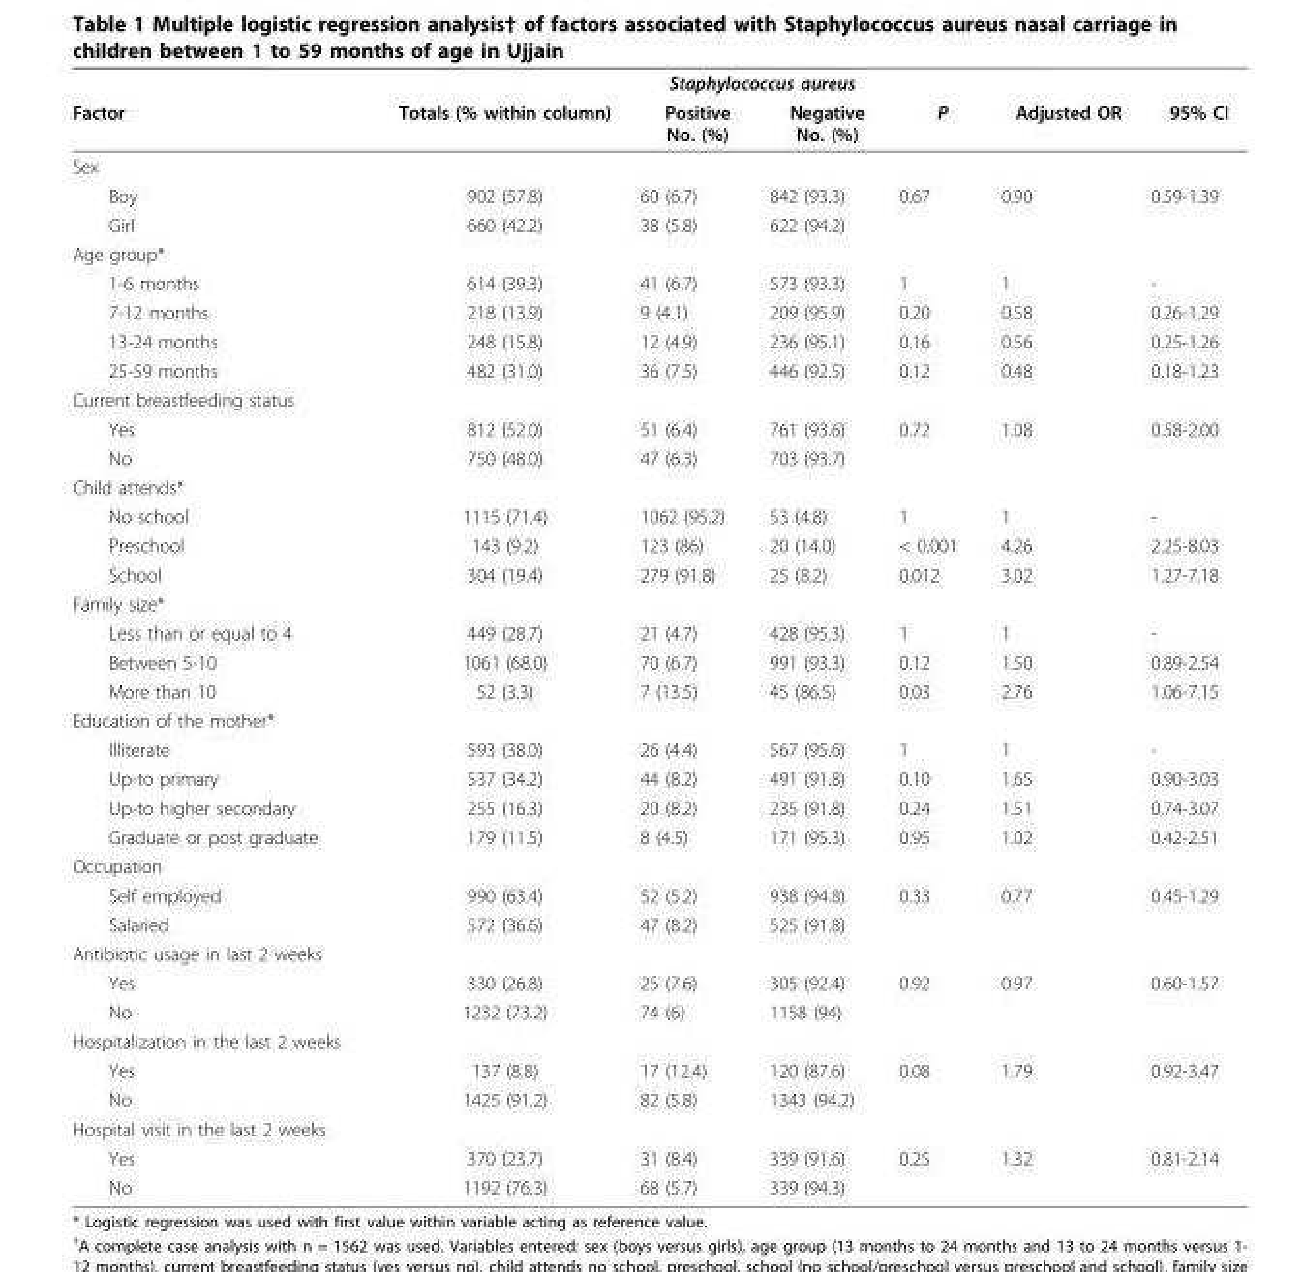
<table><thead><tr><td rowspan="2">Factor</td><td rowspan="2">Totals (% within column)</td><td colspan="2">Staphylococcus aureus</td><td rowspan="2">P</td><td rowspan="2">Adjusted OR</td><td rowspan="2">95% CI</td></tr><tr><td>Positive No. (%)</td><td>Negative No. (%)</td></tr></thead><tbody><tr><td colspan="7">Sex</td></tr><tr><td>Boy</td><td>902 (57.8)</td><td>60 (6.7)</td><td>842 (93.3)</td><td>0.67</td><td>0.90</td><td>0.59-1.39</td></tr><tr><td>Girl</td><td>660 (42.2)</td><td>38 (5.8)</td><td>622 (94.2)</td><td></td><td></td><td></td></tr><tr><td colspan="7">Age group*</td></tr><tr><td>1-6 months</td><td>614 (39.3)</td><td>41 (6.7)</td><td>573 (93.3)</td><td>1</td><td>1</td><td>-</td></tr><tr><td>7-12 months</td><td>218 (13.9)</td><td>9 (4.1)</td><td>209 (95.9)</td><td>0.20</td><td>0.58</td><td>0.26-1.29</td></tr><tr><td>13-24 months</td><td>248 (15.8)</td><td>12 (4.9)</td><td>236 (95.1)</td><td>0.16</td><td>0.56</td><td>0.25-1.26</td></tr><tr><td>25-59 months</td><td>482 (31.0)</td><td>36 (7.5)</td><td>446 (92.5)</td><td>0.12</td><td>0.48</td><td>0.18-1.23</td></tr><tr><td colspan="7">Current breastfeeding status</td></tr><tr><td>Yes</td><td>812 (52.0)</td><td>51 (6.4)</td><td>761 (93.6)</td><td>0.72</td><td>1.08</td><td>0.58-2.00</td></tr><tr><td>No</td><td>750 (48.0)</td><td>47 (6.3)</td><td>703 (93.7)</td><td></td><td></td><td></td></tr><tr><td colspan="7">Child attends*</td></tr><tr><td>No school</td><td>1115 (71.4)</td><td>1062 (95.2)</td><td>53 (4.8)</td><td>1</td><td>1</td><td>-</td></tr><tr><td>Preschool</td><td>143 (9.2)</td><td>123 (86)</td><td>20 (14.0)</td><td>&lt; 0.001</td><td>4.26</td><td>2.25-8.03</td></tr><tr><td>School</td><td>304 (19.4)</td><td>279 (91.8)</td><td>25 (8.2)</td><td>0.012</td><td>3.02</td><td>1.27-7.18</td></tr><tr><td colspan="7">Family size*</td></tr><tr><td>Less than or equal to 4</td><td>449 (28.7)</td><td>21 (4.7)</td><td>428 (95.3)</td><td>1</td><td>1</td><td>-</td></tr><tr><td>Between 5-10</td><td>1061 (68.0)</td><td>70 (6.7)</td><td>991 (93.3)</td><td>0.12</td><td>1.50</td><td>0.89-2.54</td></tr><tr><td>More than 10</td><td>52 (3.3)</td><td>7 (13.5)</td><td>45 (86.5)</td><td>0.03</td><td>2.76</td><td>1.06-7.15</td></tr><tr><td colspan="7">Education of the mother*</td></tr><tr><td>Illiterate</td><td>593 (38.0)</td><td>26 (4.4)</td><td>567 (95.6)</td><td>1</td><td>1</td><td>-</td></tr><tr><td>Up-to primary</td><td>537 (34.2)</td><td>44 (8.2)</td><td>491 (91.8)</td><td>0.10</td><td>1.65</td><td>0.90-3.03</td></tr><tr><td>Up-to higher secondary</td><td>255 (16.3)</td><td>20 (8.2)</td><td>235 (91.8)</td><td>0.24</td><td>1.51</td><td>0.74-3.07</td></tr><tr><td>Graduate or post graduate</td><td>179 (11.5)</td><td>8 (4.5)</td><td>171 (95.3)</td><td>0.95</td><td>1.02</td><td>0.42-2.51</td></tr><tr><td colspan="7">Occupation</td></tr><tr><td>Self employed</td><td>990 (63.4)</td><td>52 (5.2)</td><td>938 (94.8)</td><td>0.33</td><td>0.77</td><td>0.45-1.29</td></tr><tr><td>Salaried</td><td>572 (36.6)</td><td>47 (8.2)</td><td>525 (91.8)</td><td></td><td></td><td></td></tr><tr><td colspan="7">Antibiotic usage in last 2 weeks</td></tr><tr><td>Yes</td><td>330 (26.8)</td><td>25 (7.6)</td><td>305 (92.4)</td><td>0.92</td><td>0.97</td><td>0.60-1.57</td></tr><tr><td>No</td><td>1232 (73.2)</td><td>74 (6)</td><td>1158 (94)</td><td></td><td></td><td></td></tr><tr><td colspan="7">Hospitalization in the last 2 weeks</td></tr><tr><td>Yes</td><td>137 (8.8)</td><td>17 (12.4)</td><td>120 (87.6)</td><td>0.08</td><td>1.79</td><td>0.92-3.47</td></tr><tr><td>No</td><td>1425 (91.2)</td><td>82 (5.8)</td><td>1343 (94.2)</td><td></td><td></td><td></td></tr><tr><td colspan="7">Hospital visit in the last 2 weeks</td></tr><tr><td>Yes</td><td>370 (23.7)</td><td>31 (8.4)</td><td>339 (91.6)</td><td>0.25</td><td>1.32</td><td>0.81-2.14</td></tr><tr><td>No</td><td>1192 (76.3)</td><td>68 (5.7)</td><td>339 (94.3)</td><td></td><td></td><td></td></tr></tbody></table>